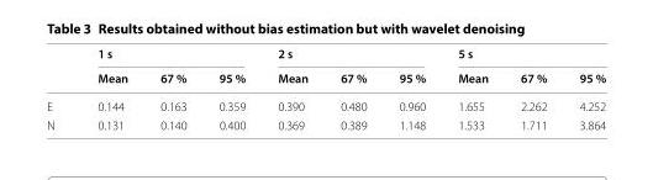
<table><thead><tr><td rowspan="2"></td><td colspan="3">1 s</td><td colspan="3">2 s</td><td colspan="3">5 s</td></tr><tr><td>Mean</td><td>67 %</td><td>95 %</td><td>Mean</td><td>67 %</td><td>95 %</td><td>Mean</td><td>67 %</td><td>95 %</td></tr></thead><tbody><tr><td>E</td><td>0.144</td><td>0.163</td><td>0.359</td><td>0.390</td><td>0.480</td><td>0.960</td><td>1.655</td><td>2.262</td><td>4.252</td></tr><tr><td>N</td><td>0.131</td><td>0.140</td><td>0.400</td><td>0.369</td><td>0.389</td><td>1.148</td><td>1.533</td><td>1.711</td><td>3.864</td></tr></tbody></table>